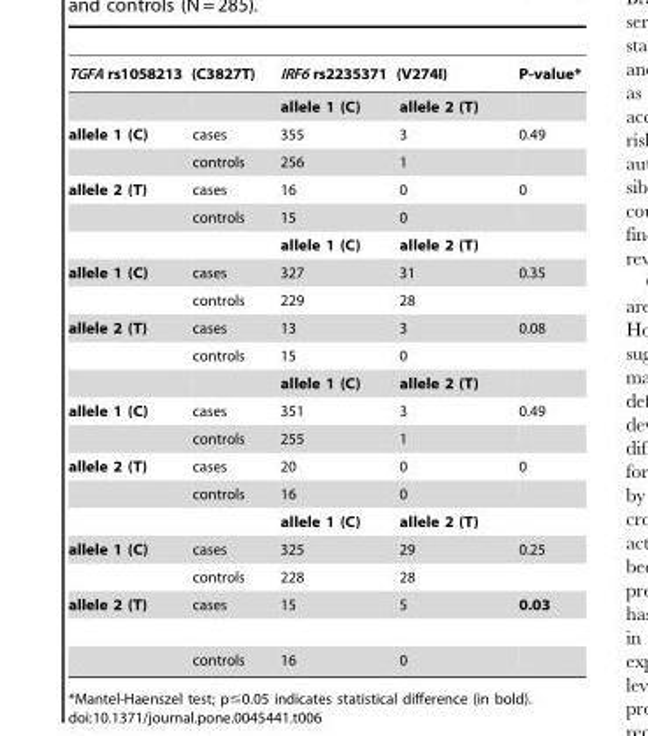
<table><thead><tr><td colspan="2">TGFA rs1058213 (C3827T)</td><td colspan="2">IRF6 rs2235371 (V274I)</td><td rowspan="2">P-value*</td></tr><tr><td></td><td></td><td>allele 1 (C)</td><td>allele 2 (T)</td></tr></thead><tbody><tr><td rowspan="2">allele 1 (C)</td><td>cases</td><td>355</td><td>3</td><td>0.49</td></tr><tr><td>controls</td><td>256</td><td>1</td><td></td></tr><tr><td rowspan="3">allele 2 (T)</td><td>cases</td><td>16</td><td>0</td><td>0</td></tr><tr><td>controls</td><td>15</td><td>0</td><td></td></tr><tr><td></td><td>allele 1 (C)</td><td>allele 2 (T)</td><td></td></tr><tr><td rowspan="2">allele 1 (C)</td><td>cases</td><td>327</td><td>31</td><td>0.35</td></tr><tr><td>controls</td><td>229</td><td>28</td><td></td></tr><tr><td rowspan="3">allele 2 (T)</td><td>cases</td><td>13</td><td>3</td><td>0.08</td></tr><tr><td>controls</td><td>15</td><td>0</td><td></td></tr><tr><td></td><td>allele 1 (C)</td><td>allele 2 (T)</td><td></td></tr><tr><td rowspan="2">allele 1 (C)</td><td>cases</td><td>351</td><td>3</td><td>0.49</td></tr><tr><td>controls</td><td>255</td><td>1</td><td></td></tr><tr><td rowspan="3">allele 2 (T)</td><td>cases</td><td>20</td><td>0</td><td>0</td></tr><tr><td>controls</td><td>16</td><td>0</td><td></td></tr><tr><td></td><td>allele 1 (C)</td><td>allele 2 (T)</td><td></td></tr><tr><td rowspan="2">allele 1 (C)</td><td>cases</td><td>325</td><td>29</td><td>0.25</td></tr><tr><td>controls</td><td>228</td><td>28</td><td></td></tr><tr><td rowspan="2">allele 2 (T)</td><td>cases</td><td>15</td><td>5</td><td>0.03</td></tr><tr><td>controls</td><td>16</td><td>0</td><td></td></tr></tbody></table>